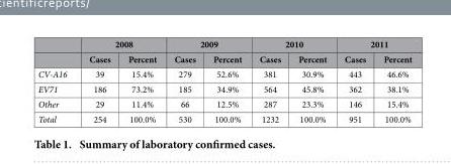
<table><thead><tr><td rowspan="2"></td><td colspan="2">2008</td><td colspan="2">2009</td><td colspan="2">2010</td><td colspan="2">2011</td></tr><tr><td>Cases</td><td>Percent</td><td>Cases</td><td>Percent</td><td>Cases</td><td>Percent</td><td>Cases</td><td>Percent</td></tr></thead><tbody><tr><td>CV-A16</td><td>39</td><td>15.4%</td><td>279</td><td>52.6%</td><td>381</td><td>30.9%</td><td>443</td><td>46.6%</td></tr><tr><td>EV71</td><td>186</td><td>73.2%</td><td>185</td><td>34.9%</td><td>564</td><td>45.8%</td><td>362</td><td>38.1%</td></tr><tr><td>Other</td><td>29</td><td>11.4%</td><td>66</td><td>12.5%</td><td>287</td><td>23.3%</td><td>146</td><td>15.4%</td></tr><tr><td>Total</td><td>254</td><td>100.0%</td><td>530</td><td>100.0%</td><td>1232</td><td>100.0%</td><td>951</td><td>100.0%</td></tr></tbody></table>